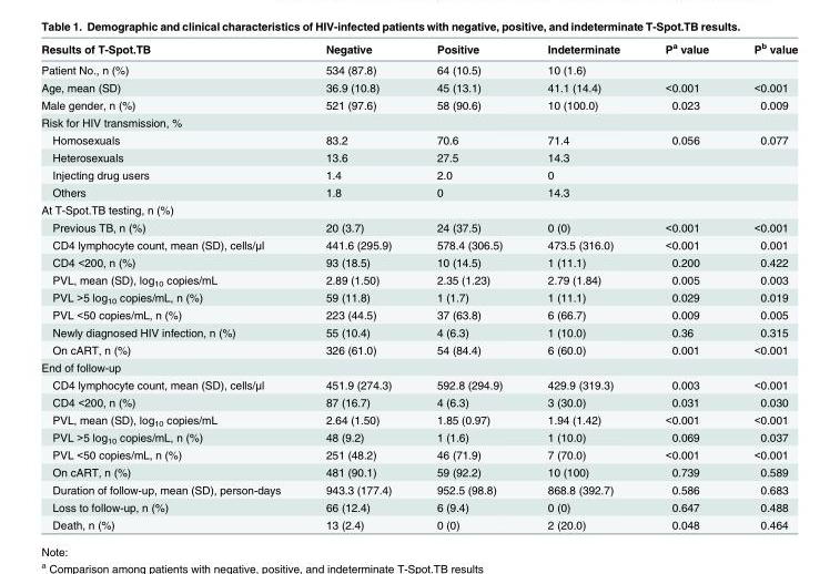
<table><thead><tr><td>Results of T-Spot.TB</td><td>Negative</td><td>Positive</td><td>Indeterminate</td><td>P<sup>a</sup> value</td><td>P<sup>b</sup> value</td></tr></thead><tbody><tr><td>Patient No., n (%)</td><td>534 (87.8)</td><td>64 (10.5)</td><td>10 (1.6)</td><td></td><td></td></tr><tr><td>Age, mean (SD)</td><td>36.9 (10.8)</td><td>45 (13.1)</td><td>41.1 (14.4)</td><td>&lt;0.001</td><td>&lt;0.001</td></tr><tr><td>Male gender, n (%)</td><td>521 (97.6)</td><td>58 (90.6)</td><td>10 (100.0)</td><td>0.023</td><td>0.009</td></tr><tr><td colspan="6">Risk for HIV transmission, %</td></tr><tr><td>Homosexuals</td><td>83.2</td><td>70.6</td><td>71.4</td><td>0.056</td><td>0.077</td></tr><tr><td>Heterosexuals</td><td>13.6</td><td>27.5</td><td>14.3</td><td></td><td></td></tr><tr><td>Injecting drug users</td><td>1.4</td><td>2.0</td><td>0</td><td></td><td></td></tr><tr><td>Others</td><td>1.8</td><td>0</td><td>14.3</td><td></td><td></td></tr><tr><td colspan="6">At T-Spot.TB testing, n (%)</td></tr><tr><td>Previous TB, n (%)</td><td>20 (3.7)</td><td>24 (37.5)</td><td>0 (0)</td><td>&lt;0.001</td><td>&lt;0.001</td></tr><tr><td>CD4 lymphocyte count, mean (SD), cells/μl</td><td>441.6 (295.9)</td><td>578.4 (306.5)</td><td>473.5 (316.0)</td><td>&lt;0.001</td><td>0.001</td></tr><tr><td>CD4 &lt;200, n (%)</td><td>93 (18.5)</td><td>10 (14.5)</td><td>1 (11.1)</td><td>0.200</td><td>0.422</td></tr><tr><td>PVL, mean (SD), log<sub>10</sub> copies/mL</td><td>2.89 (1.50)</td><td>2.35 (1.23)</td><td>2.79 (1.84)</td><td>0.005</td><td>0.003</td></tr><tr><td>PVL &gt;5 log<sub>10</sub> copies/mL, n (%)</td><td>59 (11.8)</td><td>1 (1.7)</td><td>1 (11.1)</td><td>0.029</td><td>0.019</td></tr><tr><td>PVL &lt;50 copies/mL, n (%)</td><td>223 (44.5)</td><td>37 (63.8)</td><td>6 (66.7)</td><td>0.009</td><td>0.005</td></tr><tr><td>Newly diagnosed HIV infection, n (%)</td><td>55 (10.4)</td><td>4 (6.3)</td><td>1 (10.0)</td><td>0.36</td><td>0.315</td></tr><tr><td>On cART, n (%)</td><td>326 (61.0)</td><td>54 (84.4)</td><td>6 (60.0)</td><td>0.001</td><td>&lt;0.001</td></tr><tr><td colspan="6">End of follow-up</td></tr><tr><td>CD4 lymphocyte count, mean (SD), cells/μl</td><td>451.9 (274.3)</td><td>592.8 (294.9)</td><td>429.9 (319.3)</td><td>0.003</td><td>&lt;0.001</td></tr><tr><td>CD4 &lt;200, n (%)</td><td>87 (16.7)</td><td>4 (6.3)</td><td>3 (30.0)</td><td>0.031</td><td>0.030</td></tr><tr><td>PVL, mean (SD), log<sub>10</sub> copies/mL</td><td>2.64 (1.50)</td><td>1.85 (0.97)</td><td>1.94 (1.42)</td><td>&lt;0.001</td><td>&lt;0.001</td></tr><tr><td>PVL &gt;5 log<sub>10</sub> copies/mL, n (%)</td><td>48 (9.2)</td><td>1 (1.6)</td><td>1 (10.0)</td><td>0.069</td><td>0.037</td></tr><tr><td>PVL &lt;50 copies/mL, n (%)</td><td>251 (48.2)</td><td>46 (71.9)</td><td>7 (70.0)</td><td>&lt;0.001</td><td>&lt;0.001</td></tr><tr><td>On cART, n (%)</td><td>481 (90.1)</td><td>59 (92.2)</td><td>10 (100)</td><td>0.739</td><td>0.589</td></tr><tr><td>Duration of follow-up, mean (SD), person-days</td><td>943.3 (177.4)</td><td>952.5 (98.8)</td><td>868.8 (392.7)</td><td>0.586</td><td>0.683</td></tr><tr><td>Loss to follow-up, n (%)</td><td>66 (12.4)</td><td>6 (9.4)</td><td>0 (0)</td><td>0.647</td><td>0.488</td></tr><tr><td>Death, n (%)</td><td>13 (2.4)</td><td>0 (0)</td><td>2 (20.0)</td><td>0.048</td><td>0.464</td></tr></tbody></table>